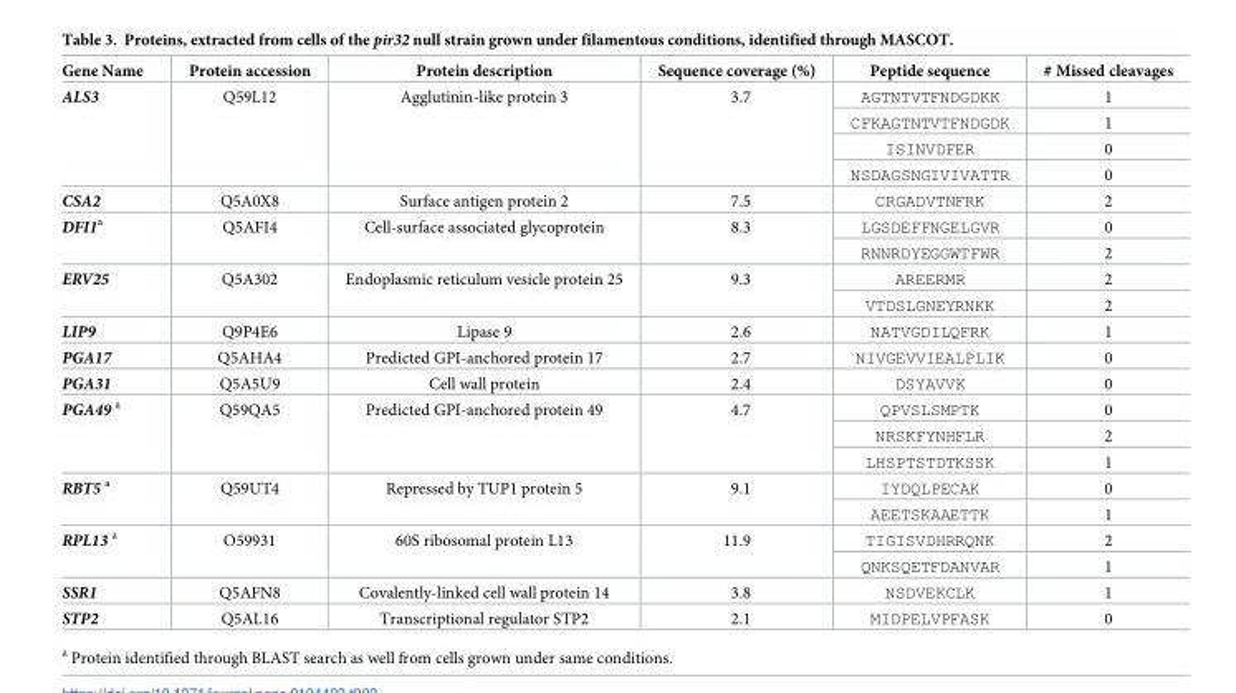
<table><thead><tr><td>Gene Name</td><td>Protein accession</td><td>Protein description</td><td>Sequence coverage (%)</td><td>Peptide sequence</td><td># Missed cleavages</td></tr></thead><tbody><tr><td rowspan="4">ALS3</td><td rowspan="4">Q59L12</td><td rowspan="4">Agglutinin-like protein 3</td><td rowspan="4">3.7</td><td>AGTNTVTFNDGDKK</td><td>1</td></tr><tr><td>CFKAGTNTVTFNDGDK</td><td>1</td></tr><tr><td>ISINVDFER</td><td>0</td></tr><tr><td>NSDAGSNGIVIVATTR</td><td>0</td></tr><tr><td>CSA2</td><td>Q5A0X8</td><td>Surface antigen protein 2</td><td>7.5</td><td>CRGADVTNFRK</td><td>2</td></tr><tr><td rowspan="2">DFI1<sup>a</sup></td><td rowspan="2">Q5AFI4</td><td rowspan="2">Cell-surface associated glycoprotein</td><td rowspan="2">8.3</td><td>LGSDEFFNGELGVR</td><td>0</td></tr><tr><td>RNNRDYEGGWTFWR</td><td>2</td></tr><tr><td rowspan="2">ERV25</td><td rowspan="2">Q5A302</td><td rowspan="2">Endoplasmic reticulum vesicle protein 25</td><td rowspan="2">9.3</td><td>AREERMR</td><td>2</td></tr><tr><td>VTDSLGNEYRNKK</td><td>2</td></tr><tr><td>LIP9</td><td>Q9P4E6</td><td>Lipase 9</td><td>2.6</td><td>NATVGDILQFRK</td><td>1</td></tr><tr><td>PGA17</td><td>Q5AHA4</td><td>Predicted GPI-anchored protein 17</td><td>2.7</td><td>NIVGEVVIEALPLIK</td><td>0</td></tr><tr><td>PGA31</td><td>Q5A5U9</td><td>Cell wall protein</td><td>2.4</td><td>DSYAVVK</td><td>0</td></tr><tr><td rowspan="3">PGA49 <sup>a</sup></td><td rowspan="3">Q59QA5</td><td rowspan="3">Predicted GPI-anchored protein 49</td><td rowspan="3">4.7</td><td>QPVSLSMPTK</td><td>0</td></tr><tr><td>NRSKFYNHFLR</td><td>2</td></tr><tr><td>LHSPTSTDTKSSK</td><td>1</td></tr><tr><td rowspan="2">RBT5 <sup>a</sup></td><td rowspan="2">Q59UT4</td><td rowspan="2">Repressed by TUP1 protein 5</td><td rowspan="2">9.1</td><td>IYDQLPECAK</td><td>0</td></tr><tr><td>AEETSKAAETTK</td><td>1</td></tr><tr><td rowspan="2">RPL13 <sup>a</sup></td><td rowspan="2">O59931</td><td rowspan="2">60S ribosomal protein L13</td><td rowspan="2">11.9</td><td>TIGISVDHRRQNK</td><td>2</td></tr><tr><td>QNKSQETFDANVAR</td><td>1</td></tr><tr><td>SSR1</td><td>Q5AFN8</td><td>Covalently-linked cell wall protein 14</td><td>3.8</td><td>NSDVEKCLK</td><td>1</td></tr><tr><td>STP2</td><td>Q5AL16</td><td>Transcriptional regulator STP2</td><td>2.1</td><td>MIDPELVPFASK</td><td>0</td></tr></tbody></table>